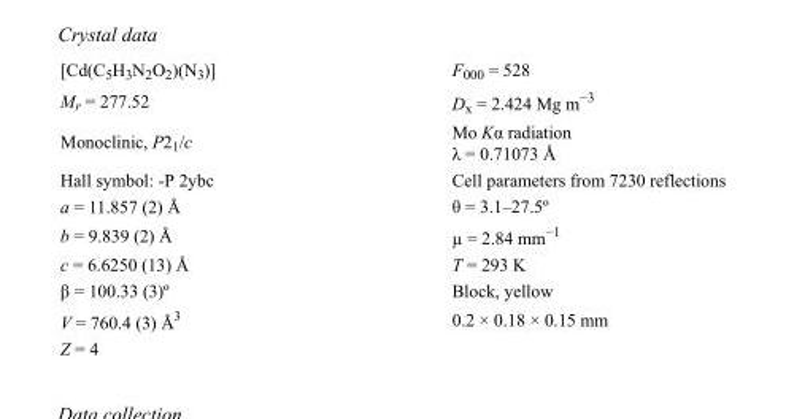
<table><tbody><tr><td>[Cd(C<sub>5</sub>H<sub>3</sub>N<sub>2</sub>O<sub>2</sub>)(N<sub>3</sub>)]</td><td>F000 = 528</td></tr><tr><td>M<sub>r</sub> = 277.52</td><td>D<sub>x</sub> = 2.424 Mg m<sup>−3</sup></td></tr><tr><td>Monoclinic, P2<sub>1</sub>/c</td><td>Mo Kα radiation λ = 0.71073 Å</td></tr><tr><td>Hall symbol: -P 2ybc</td><td>Cell parameters from 7230 reflections</td></tr><tr><td>a = 11.857 (2) Å</td><td>θ = 3.1–27.5º</td></tr><tr><td>b = 9.839 (2) Å</td><td>µ = 2.84 mm<sup>−1</sup></td></tr><tr><td>c = 6.6250 (13) Å</td><td>T = 293 K</td></tr><tr><td>β = 100.33 (3)º</td><td>Block, yellow</td></tr><tr><td>V = 760.4 (3) Å<sup>3</sup></td><td>0.2 × 0.18 × 0.15 mm</td></tr><tr><td>Z = 4</td><td></td></tr></tbody></table>